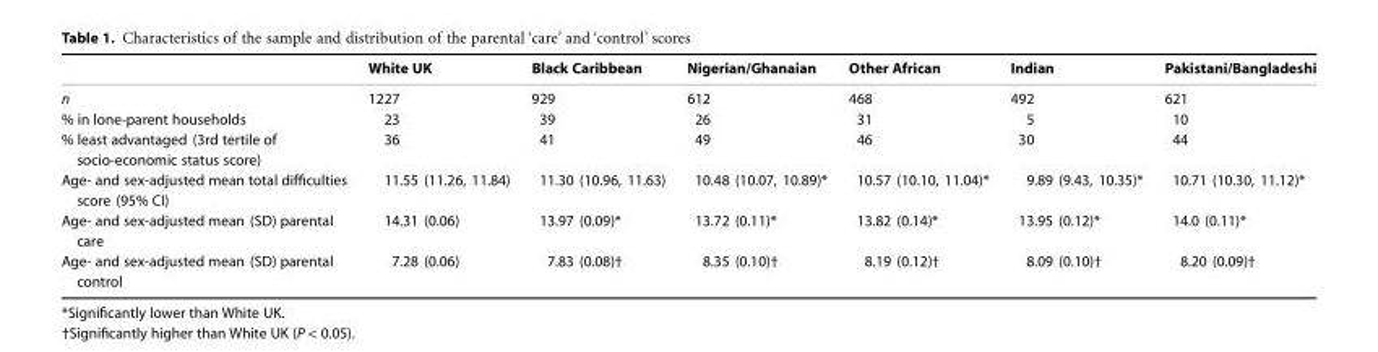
<table><thead><tr><td></td><td>White UK</td><td>Black Caribbean</td><td>Nigerian/Ghanaian</td><td>Other African</td><td>Indian</td><td>Pakistani/Bangladeshi</td></tr></thead><tbody><tr><td>n</td><td>1227</td><td>929</td><td>612</td><td>468</td><td>492</td><td>621</td></tr><tr><td>% in lone-parent households</td><td>23</td><td>39</td><td>26</td><td>31</td><td>5</td><td>10</td></tr><tr><td>% least advantaged (3rd tertile of socio-economic status score)</td><td>36</td><td>41</td><td>49</td><td>46</td><td>30</td><td>44</td></tr><tr><td>Age- and sex-adjusted mean total difficulties score (95% CI)</td><td>11.55 (11.26, 11.84)</td><td>11.30 (10.96, 11.63)</td><td>10.48 (10.07, 10.89)*</td><td>10.57 (10.10, 11.04)*</td><td>9.89 (9.43, 10.35)*</td><td>10.71 (10.30, 11.12)*</td></tr><tr><td>Age- and sex-adjusted mean (SD) parental care</td><td>14.31 (0.06)</td><td>13.97 (0.09)*</td><td>13.72 (0.11)*</td><td>13.82 (0.14)*</td><td>13.95 (0.12)*</td><td>14.0 (0.11)*</td></tr><tr><td>Age- and sex-adjusted mean (SD) parental control</td><td>7.28 (0.06)</td><td>7.83 (0.08)†</td><td>8.35 (0.10)†</td><td>8.19 (0.12)†</td><td>8.09 (0.10)†</td><td>8.20 (0.09)†</td></tr></tbody></table>